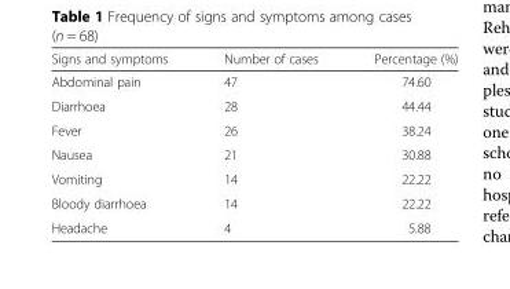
<table><thead><tr><td>Signs and symptoms</td><td>Number of cases</td><td>Percentage (%)</td></tr></thead><tbody><tr><td>Abdominal pain</td><td>47</td><td>74.60</td></tr><tr><td>Diarrhoea</td><td>28</td><td>44.44</td></tr><tr><td>Fever</td><td>26</td><td>38.24</td></tr><tr><td>Nausea</td><td>21</td><td>30.88</td></tr><tr><td>Vomiting</td><td>14</td><td>22.22</td></tr><tr><td>Bloody diarrhoea</td><td>14</td><td>22.22</td></tr><tr><td>Headache</td><td>4</td><td>5.88</td></tr></tbody></table>